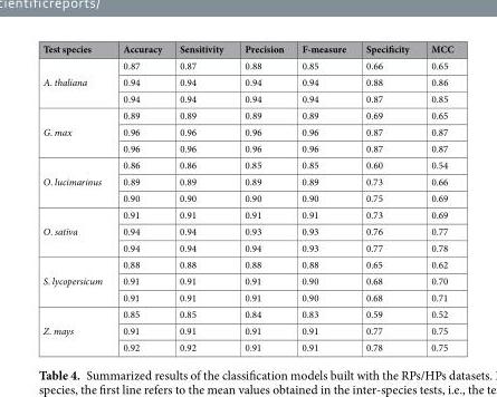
<table><thead><tr><td>Test species</td><td>Accuracy</td><td>Sensitivity</td><td>Precision</td><td>F-measure</td><td>Specificity</td><td>MCC</td></tr></thead><tbody><tr><td rowspan="3">A. thaliana</td><td>0.87</td><td>0.87</td><td>0.88</td><td>0.85</td><td>0.66</td><td>0.65</td></tr><tr><td>0.94</td><td>0.94</td><td>0.94</td><td>0.94</td><td>0.88</td><td>0.86</td></tr><tr><td>0.94</td><td>0.94</td><td>0.94</td><td>0.94</td><td>0.87</td><td>0.85</td></tr><tr><td rowspan="3">G. max</td><td>0.89</td><td>0.89</td><td>0.89</td><td>0.89</td><td>0.69</td><td>0.65</td></tr><tr><td>0.96</td><td>0.96</td><td>0.96</td><td>0.96</td><td>0.87</td><td>0.87</td></tr><tr><td>0.96</td><td>0.96</td><td>0.96</td><td>0.96</td><td>0.87</td><td>0.87</td></tr><tr><td rowspan="3">O. lucimarinus</td><td>0.86</td><td>0.86</td><td>0.85</td><td>0.85</td><td>0.60</td><td>0.54</td></tr><tr><td>0.89</td><td>0.89</td><td>0.89</td><td>0.89</td><td>0.73</td><td>0.66</td></tr><tr><td>0.90</td><td>0.90</td><td>0.90</td><td>0.90</td><td>0.75</td><td>0.69</td></tr><tr><td rowspan="3">O. sativa</td><td>0.91</td><td>0.91</td><td>0.91</td><td>0.91</td><td>0.73</td><td>0.69</td></tr><tr><td>0.94</td><td>0.94</td><td>0.93</td><td>0.93</td><td>0.76</td><td>0.77</td></tr><tr><td>0.94</td><td>0.94</td><td>0.94</td><td>0.93</td><td>0.77</td><td>0.78</td></tr><tr><td rowspan="3">S. lycopersicum</td><td>0.88</td><td>0.88</td><td>0.88</td><td>0.88</td><td>0.65</td><td>0.62</td></tr><tr><td>0.91</td><td>0.91</td><td>0.91</td><td>0.90</td><td>0.68</td><td>0.70</td></tr><tr><td>0.91</td><td>0.91</td><td>0.91</td><td>0.90</td><td>0.68</td><td>0.71</td></tr><tr><td rowspan="3">Z. mays</td><td>0.85</td><td>0.85</td><td>0.84</td><td>0.83</td><td>0.59</td><td>0.52</td></tr><tr><td>0.91</td><td>0.91</td><td>0.91</td><td>0.91</td><td>0.77</td><td>0.75</td></tr><tr><td>0.92</td><td>0.92</td><td>0.91</td><td>0.91</td><td>0.78</td><td>0.75</td></tr></tbody></table>